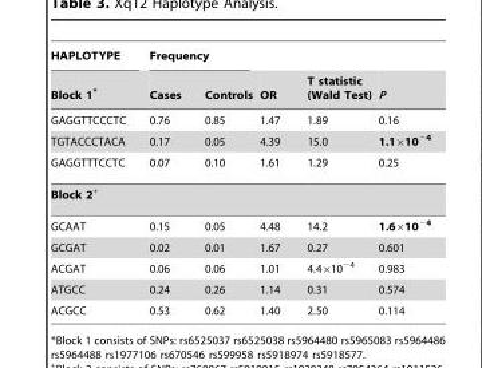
<table><thead><tr><td rowspan="2">HAPLOTYPE Block 1*</td><td colspan="2">Frequency</td><td rowspan="2">OR</td><td rowspan="2">T statistic (Wald Test)</td><td rowspan="2">P</td></tr><tr><td>Cases</td><td>Controls</td></tr></thead><tbody><tr><td>GAGGTTCCCTC</td><td>0.76</td><td>0.85</td><td>1.47</td><td>1.89</td><td>0.16</td></tr><tr><td>TGTACCCTACA</td><td>0.17</td><td>0.05</td><td>4.39</td><td>15.0</td><td>1.1×10<sup>−4</sup></td></tr><tr><td>GAGGTTTCCTC</td><td>0.07</td><td>0.10</td><td>1.61</td><td>1.29</td><td>0.25</td></tr><tr><td colspan="6">Block 2+</td></tr><tr><td>GCAAT</td><td>0.15</td><td>0.05</td><td>4.48</td><td>14.2</td><td>1.6×10<sup>−4</sup></td></tr><tr><td>GCGAT</td><td>0.02</td><td>0.01</td><td>1.67</td><td>0.27</td><td>0.601</td></tr><tr><td>ACGAT</td><td>0.06</td><td>0.06</td><td>1.01</td><td>4.4×10<sup>−4</sup></td><td>0.983</td></tr><tr><td>ATGCC</td><td>0.24</td><td>0.26</td><td>1.14</td><td>0.31</td><td>0.574</td></tr><tr><td>ACGCC</td><td>0.53</td><td>0.62</td><td>1.40</td><td>2.50</td><td>0.114</td></tr></tbody></table>